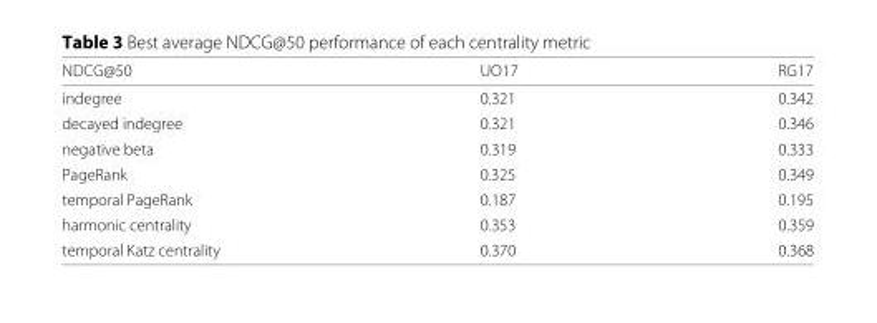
<table><thead><tr><td>NDCG@50</td><td>UO17</td><td>RG17</td></tr></thead><tbody><tr><td>indegree</td><td>0.321</td><td>0.342</td></tr><tr><td>decayed indegree</td><td>0.321</td><td>0.346</td></tr><tr><td>negative beta</td><td>0.319</td><td>0.333</td></tr><tr><td>PageRank</td><td>0.325</td><td>0.349</td></tr><tr><td>temporal PageRank</td><td>0.187</td><td>0.195</td></tr><tr><td>harmonic centrality</td><td>0.353</td><td>0.359</td></tr><tr><td>temporal Katz centrality</td><td>0.370</td><td>0.368</td></tr></tbody></table>